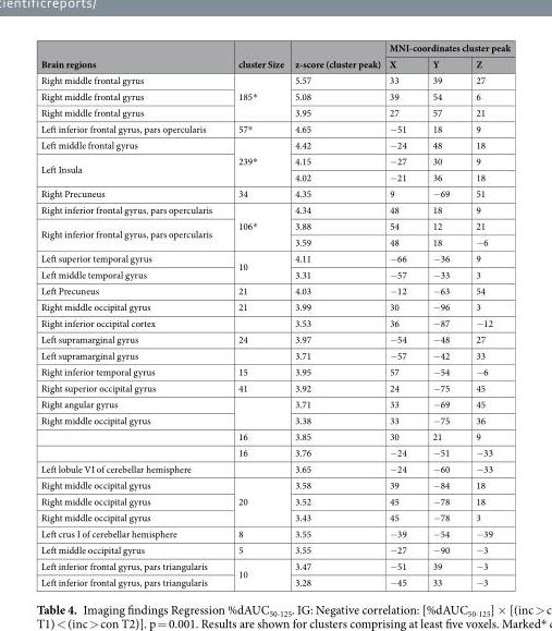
<table><thead><tr><td rowspan="2">Brain regions</td><td rowspan="2">cluster Size</td><td rowspan="2">z-score (cluster peak)</td><td colspan="3">MNI-coordinates cluster peak</td></tr><tr><td>X</td><td>Y</td><td>Z</td></tr></thead><tbody><tr><td>Right middle frontal gyrus</td><td rowspan="3">185*</td><td>5.57</td><td>33</td><td>39</td><td>27</td></tr><tr><td>Right middle frontal gyrus</td><td>5.08</td><td>39</td><td>54</td><td>6</td></tr><tr><td>Right middle frontal gyrus</td><td>3.95</td><td>27</td><td>57</td><td>21</td></tr><tr><td>Left inferior frontal gyrus, pars opercularis</td><td>57*</td><td>4.65</td><td>−51</td><td>18</td><td>9</td></tr><tr><td>Left middle frontal gyrus</td><td rowspan="3">239*</td><td>4.42</td><td>−24</td><td>48</td><td>18</td></tr><tr><td rowspan="2">Left Insula</td><td>4.15</td><td>−27</td><td>30</td><td>9</td></tr><tr><td>4.02</td><td>−21</td><td>36</td><td>18</td></tr><tr><td>Right Precuneus</td><td>34</td><td>4.35</td><td>9</td><td>−69</td><td>51</td></tr><tr><td>Right inferior frontal gyrus, pars opercularis</td><td rowspan="3">106*</td><td>4.34</td><td>48</td><td>18</td><td>9</td></tr><tr><td rowspan="2">Right inferior frontal gyrus, pars opercularis</td><td>3.88</td><td>54</td><td>12</td><td>21</td></tr><tr><td>3.59</td><td>48</td><td>18</td><td>−6</td></tr><tr><td>Left superior temporal gyrus</td><td rowspan="2">10</td><td>4.11</td><td>−66</td><td>−36</td><td>9</td></tr><tr><td>Left middle temporal gyrus</td><td>3.31</td><td>−57</td><td>−33</td><td>3</td></tr><tr><td>Left Precuneus</td><td>21</td><td>4.03</td><td>−12</td><td>−63</td><td>54</td></tr><tr><td>Right middle occipital gyrus</td><td>21</td><td>3.99</td><td>30</td><td>−96</td><td>3</td></tr><tr><td>Right inferior occipital cortex</td><td></td><td>3.53</td><td>36</td><td>−87</td><td>−12</td></tr><tr><td>Left supramarginal gyrus</td><td>24</td><td>3.97</td><td>−54</td><td>−48</td><td>27</td></tr><tr><td>Left supramarginal gyrus</td><td></td><td>3.71</td><td>−57</td><td>−42</td><td>33</td></tr><tr><td>Right inferior temporal gyrus</td><td>15</td><td>3.95</td><td>57</td><td>−54</td><td>−6</td></tr><tr><td>Right superior occipital gyrus</td><td>41</td><td>3.92</td><td>24</td><td>−75</td><td>45</td></tr><tr><td>Right angular gyrus</td><td rowspan="2"></td><td>3.71</td><td>33</td><td>−69</td><td>45</td></tr><tr><td rowspan="3">Right middle occipital gyrus</td><td>3.38</td><td>33</td><td>−75</td><td>36</td></tr><tr><td>16</td><td>3.85</td><td>30</td><td>21</td><td>9</td></tr><tr><td>16</td><td>3.76</td><td>−24</td><td>−51</td><td>−33</td></tr><tr><td>Left lobule VI of cerebellar hemisphere</td><td></td><td>3.65</td><td>−24</td><td>−60</td><td>−33</td></tr><tr><td>Right middle occipital gyrus</td><td rowspan="3">20</td><td>3.58</td><td>39</td><td>−84</td><td>18</td></tr><tr><td>Right middle occipital gyrus</td><td>3.52</td><td>45</td><td>−78</td><td>18</td></tr><tr><td>Right middle occipital gyrus</td><td>3.43</td><td>45</td><td>−78</td><td>3</td></tr><tr><td>Left crus I of cerebellar hemisphere</td><td>8</td><td>3.55</td><td>−39</td><td>−54</td><td>−39</td></tr><tr><td>Left middle occipital gyrus</td><td>5</td><td>3.55</td><td>−27</td><td>−90</td><td>−3</td></tr><tr><td>Left inferior frontal gyrus, pars triangularis</td><td rowspan="2">10</td><td>3.47</td><td>−51</td><td>39</td><td>−3</td></tr><tr><td>Left inferior frontal gyrus, pars triangularis</td><td>3.28</td><td>−45</td><td>33</td><td>−3</td></tr></tbody></table>